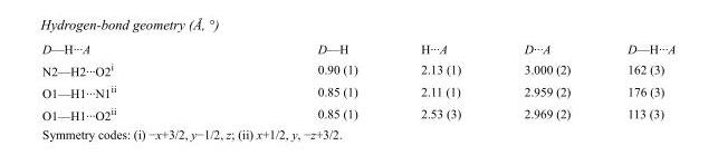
<table><tbody><tr><td>D—H···A</td><td>D—H</td><td>H···A</td><td>D···A</td><td>D—H···A</td></tr><tr><td>N2—H2···O2<sup>i</sup></td><td>0.90 (1)</td><td>2.13 (1)</td><td>3.000 (2)</td><td>162 (3)</td></tr><tr><td>O1—H1···N1<sup>ii</sup></td><td>0.85 (1)</td><td>2.11 (1)</td><td>2.959 (2)</td><td>176 (3)</td></tr><tr><td>O1—H1···O2<sup>ii</sup></td><td>0.85 (1)</td><td>2.53 (3)</td><td>2.969 (2)</td><td>113 (3)</td></tr></tbody></table>